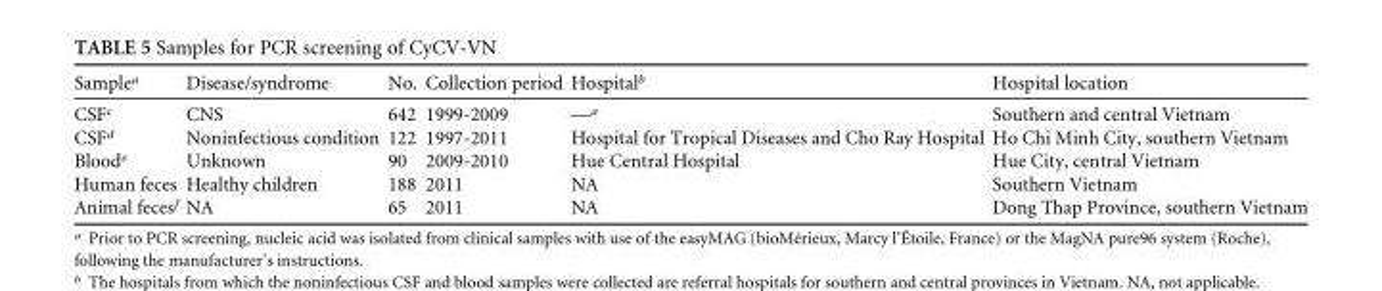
<table><thead><tr><td>Sample<sup>a</sup></td><td>Disease/syndrome</td><td>No.</td><td>Collection period</td><td>Hospital<sup>b</sup></td><td>Hospital location</td></tr></thead><tbody><tr><td>CSF<sup>c</sup></td><td>CNS</td><td>642</td><td>1999-2009</td><td>—<sup>a</sup></td><td>Southern and central Vietnam</td></tr><tr><td>CSF<sup>d</sup></td><td>Noninfectious condition</td><td>122</td><td>1997-2011</td><td>Hospital for Tropical Diseases and Cho Ray Hospital</td><td>Ho Chi Minh City, southern Vietnam</td></tr><tr><td>Blood<sup>e</sup></td><td>Unknown</td><td>90</td><td>2009-2010</td><td>Hue Central Hospital</td><td>Hue City, central Vietnam</td></tr><tr><td>Human feces</td><td>Healthy children</td><td>188</td><td>2011</td><td>NA</td><td>Southern Vietnam</td></tr><tr><td>Animal feces<sup>f</sup></td><td>NA</td><td>65</td><td>2011</td><td>NA</td><td>Dong Thap Province, southern Vietnam</td></tr></tbody></table>